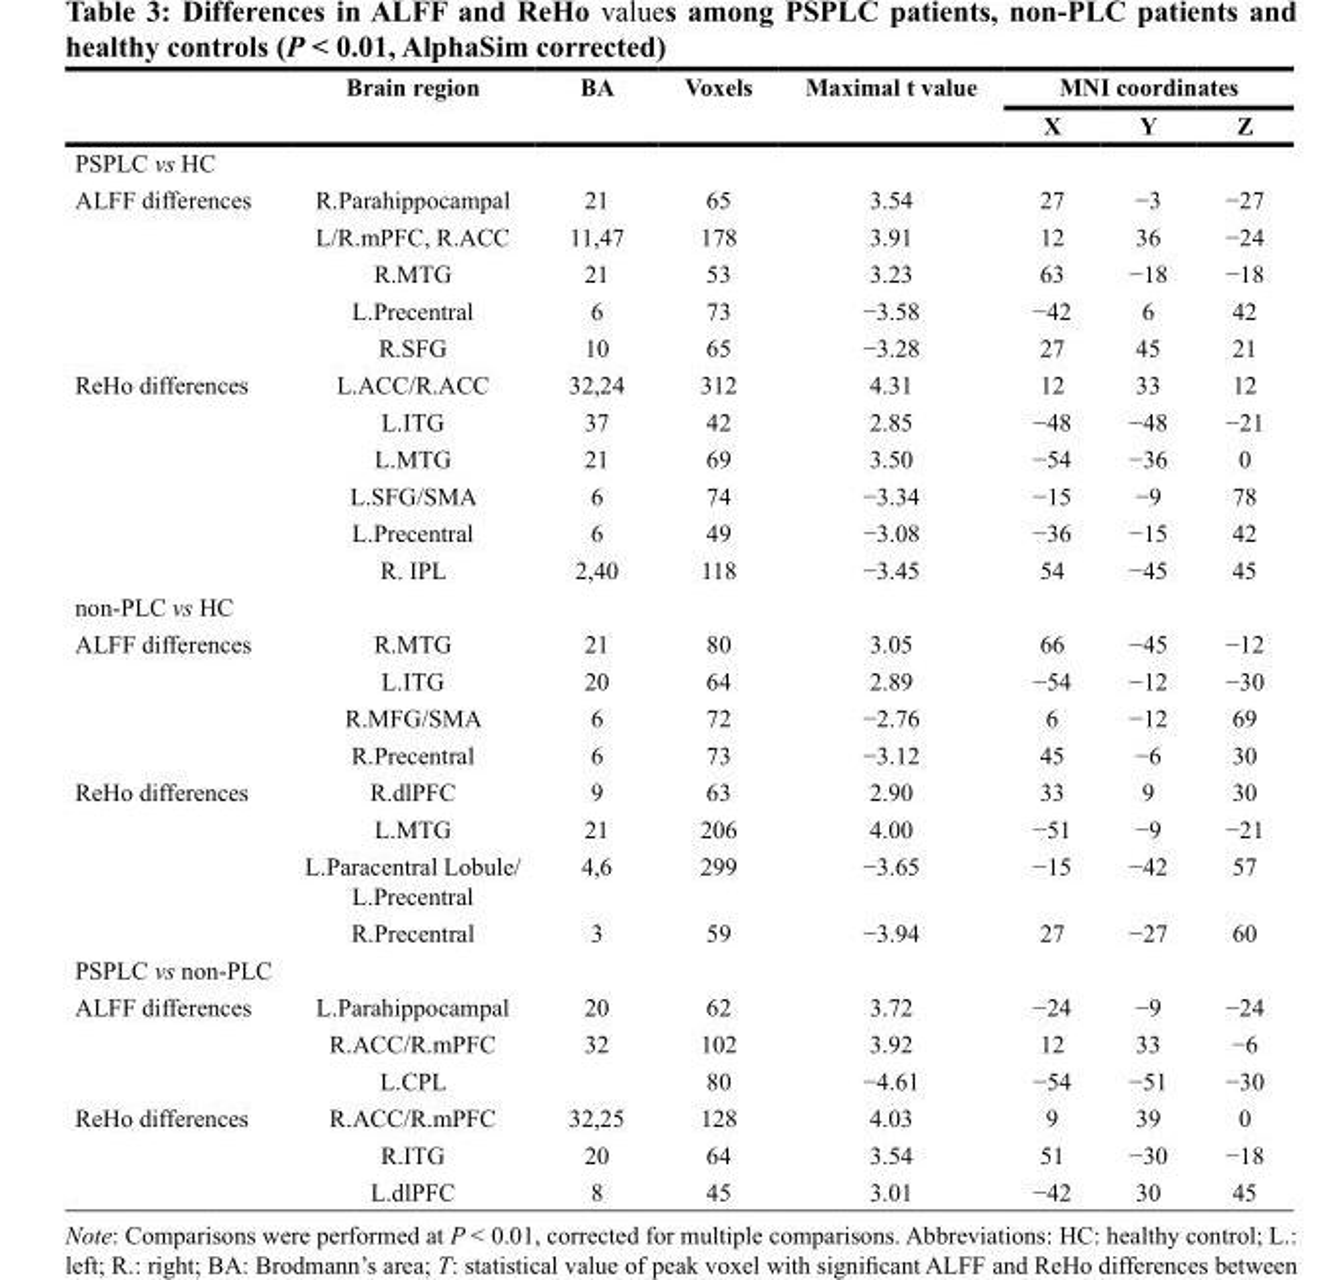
<table><thead><tr><td rowspan="2"></td><td rowspan="2">Brain region</td><td rowspan="2">BA</td><td rowspan="2">Voxels</td><td rowspan="2">Maximal t value</td><td colspan="3">MNI coordinates</td></tr><tr><td>X</td><td>Y</td><td>Z</td></tr></thead><tbody><tr><td colspan="8">PSPLC vs HC</td></tr><tr><td rowspan="5">ALFF differences</td><td>R.Parahippocampal</td><td>21</td><td>65</td><td>3.54</td><td>27</td><td>−3</td><td>−27</td></tr><tr><td>L/R.mPFC, R.ACC</td><td>11,47</td><td>178</td><td>3.91</td><td>12</td><td>36</td><td>−24</td></tr><tr><td>R.MTG</td><td>21</td><td>53</td><td>3.23</td><td>63</td><td>−18</td><td>−18</td></tr><tr><td>L.Precentral</td><td>6</td><td>73</td><td>−3.58</td><td>−42</td><td>6</td><td>42</td></tr><tr><td>R.SFG</td><td>10</td><td>65</td><td>−3.28</td><td>27</td><td>45</td><td>21</td></tr><tr><td rowspan="6">ReHo differences</td><td>L.ACC/R.ACC</td><td>32,24</td><td>312</td><td>4.31</td><td>12</td><td>33</td><td>12</td></tr><tr><td>L.ITG</td><td>37</td><td>42</td><td>2.85</td><td>−48</td><td>−48</td><td>−21</td></tr><tr><td>L.MTG</td><td>21</td><td>69</td><td>3.50</td><td>−54</td><td>−36</td><td>0</td></tr><tr><td>L.SFG/SMA</td><td>6</td><td>74</td><td>−3.34</td><td>−15</td><td>−9</td><td>78</td></tr><tr><td>L.Precentral</td><td>6</td><td>49</td><td>−3.08</td><td>−36</td><td>−15</td><td>42</td></tr><tr><td>R. IPL</td><td>2,40</td><td>118</td><td>−3.45</td><td>54</td><td>−45</td><td>45</td></tr><tr><td colspan="8">non-PLC vs HC</td></tr><tr><td rowspan="4">ALFF differences</td><td>R.MTG</td><td>21</td><td>80</td><td>3.05</td><td>66</td><td>−45</td><td>−12</td></tr><tr><td>L.ITG</td><td>20</td><td>64</td><td>2.89</td><td>−54</td><td>−12</td><td>−30</td></tr><tr><td>R.MFG/SMA</td><td>6</td><td>72</td><td>−2.76</td><td>6</td><td>−12</td><td>69</td></tr><tr><td>R.Precentral</td><td>6</td><td>73</td><td>−3.12</td><td>45</td><td>−6</td><td>30</td></tr><tr><td rowspan="4">ReHo differences</td><td>R.dlPFC</td><td>9</td><td>63</td><td>2.90</td><td>33</td><td>9</td><td>30</td></tr><tr><td>L.MTG</td><td>21</td><td>206</td><td>4.00</td><td>−51</td><td>−9</td><td>−21</td></tr><tr><td>L.Paracentral Lobule/ L.Precentral</td><td>4,6</td><td>299</td><td>−3.65</td><td>−15</td><td>−42</td><td>57</td></tr><tr><td>R.Precentral</td><td>3</td><td>59</td><td>−3.94</td><td>27</td><td>−27</td><td>60</td></tr><tr><td colspan="8">PSPLC vs non-PLC</td></tr><tr><td rowspan="3">ALFF differences</td><td>L.Parahippocampal</td><td>20</td><td>62</td><td>3.72</td><td>−24</td><td>−9</td><td>−24</td></tr><tr><td>R.ACC/R.mPFC</td><td>32</td><td>102</td><td>3.92</td><td>12</td><td>33</td><td>−6</td></tr><tr><td>L.CPL</td><td></td><td>80</td><td>−4.61</td><td>−54</td><td>−51</td><td>−30</td></tr><tr><td rowspan="3">ReHo differences</td><td>R.ACC/R.mPFC</td><td>32,25</td><td>128</td><td>4.03</td><td>9</td><td>39</td><td>0</td></tr><tr><td>R.ITG</td><td>20</td><td>64</td><td>3.54</td><td>51</td><td>−30</td><td>−18</td></tr><tr><td>L.dlPFC</td><td>8</td><td>45</td><td>3.01</td><td>−42</td><td>30</td><td>45</td></tr></tbody></table>